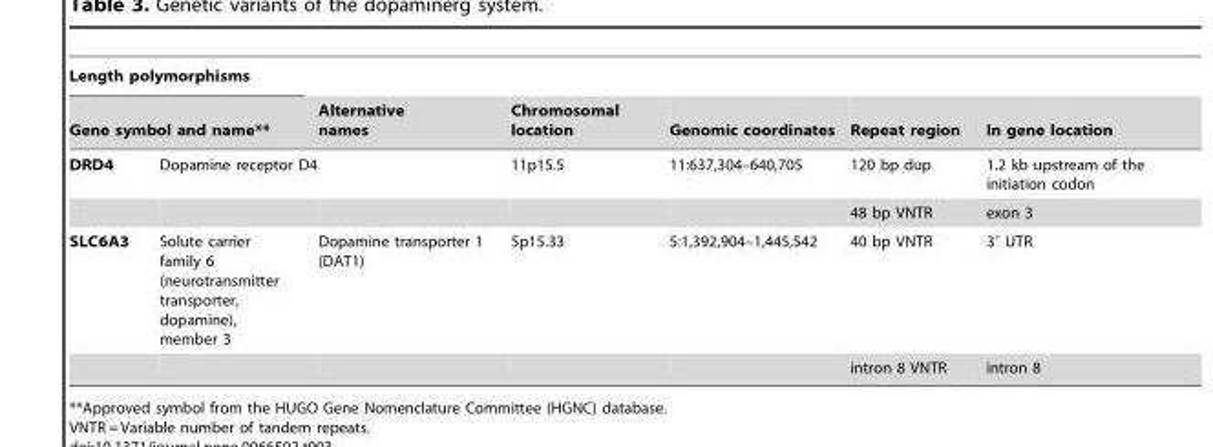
<table><thead><tr><td rowspan="2" colspan="2">Length polymorphisms Gene symbol and name**</td><td rowspan="3">Alternative names</td><td rowspan="3">Chromosomal location 11p15.5</td><td rowspan="3">Genomic coordinates 11:637,304–640,705</td><td rowspan="3">Repeat region 120 bp dup</td><td rowspan="3">In gene location 1.2 kb upstream of the initiation codon</td></tr><tr></tr><tr><td>DRD4</td><td>Dopamine receptor D4</td></tr></thead><tbody><tr><td></td><td></td><td></td><td></td><td></td><td>48 bp VNTR</td><td>exon 3</td></tr><tr><td rowspan="2">SLC6A3</td><td>Solute carrier family 6 (neurotransmitter transporter, dopamine), member 3</td><td>Dopamine transporter 1 (DAT1)</td><td>5p15.33</td><td>5:1,392,904–1,445,542</td><td>40 bp VNTR</td><td>3′ UTR</td></tr><tr><td></td><td></td><td></td><td></td><td>intron 8 VNTR</td><td>intron 8</td></tr></tbody></table>